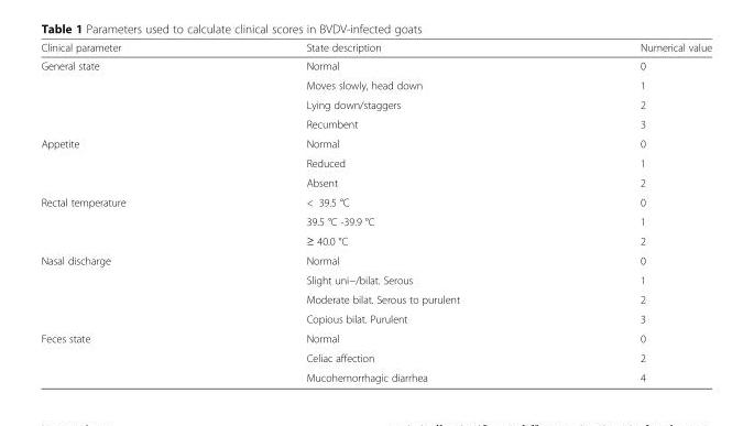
<table><thead><tr><td>Clinical parameter</td><td>State description</td><td>Numerical value</td></tr></thead><tbody><tr><td rowspan="4">General state</td><td>Normal</td><td>0</td></tr><tr><td>Moves slowly, head down</td><td>1</td></tr><tr><td>Lying down/staggers</td><td>2</td></tr><tr><td>Recumbent</td><td>3</td></tr><tr><td rowspan="3">Appetite</td><td>Normal</td><td>0</td></tr><tr><td>Reduced</td><td>1</td></tr><tr><td>Absent</td><td>2</td></tr><tr><td rowspan="3">Rectal temperature</td><td>&lt; 39.5 °C</td><td>0</td></tr><tr><td>39.5 °C -39.9 °C</td><td>1</td></tr><tr><td>≥ 40.0 °C</td><td>2</td></tr><tr><td rowspan="4">Nasal discharge</td><td>Normal</td><td>0</td></tr><tr><td>Slight uni−/bilat. Serous</td><td>1</td></tr><tr><td>Moderate bilat. Serous to purulent</td><td>2</td></tr><tr><td>Copious bilat. Purulent</td><td>3</td></tr><tr><td rowspan="3">Feces state</td><td>Normal</td><td>0</td></tr><tr><td>Celiac affection</td><td>2</td></tr><tr><td>Mucohemorrhagic diarrhea</td><td>4</td></tr></tbody></table>